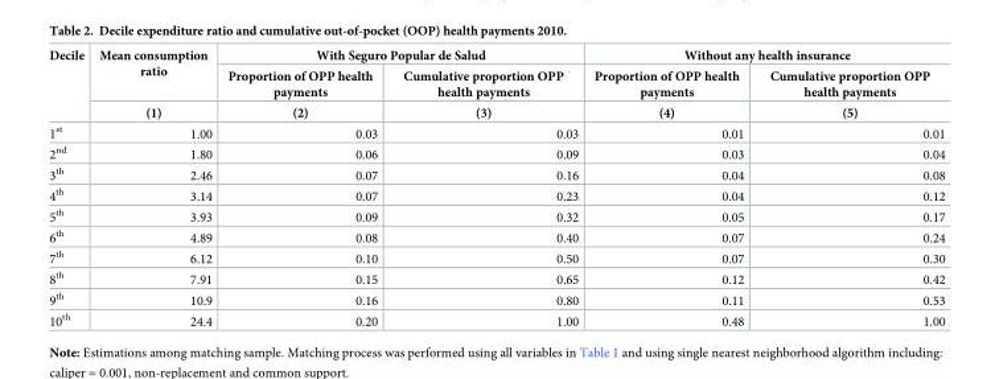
<table><thead><tr><td rowspan="3">Decile</td><td rowspan="3">Mean consumption ratio (1)</td><td colspan="2">With Seguro Popular de Salud</td><td colspan="2">Without any health insurance</td></tr><tr><td rowspan="2">Proportion of OPP health payments (2)</td><td rowspan="2">Cumulative proportion OPP health payments (3)</td><td rowspan="2">Proportion of OPP health payments (4)</td><td rowspan="2">Cumulative proportion OPP health payments (5)</td></tr><tr></tr></thead><tbody><tr><td>1<sup>st</sup></td><td>1.00</td><td>0.03</td><td>0.03</td><td>0.01</td><td>0.01</td></tr><tr><td>2<sup>nd</sup></td><td>1.80</td><td>0.06</td><td>0.09</td><td>0.03</td><td>0.04</td></tr><tr><td>3<sup>th</sup></td><td>2.46</td><td>0.07</td><td>0.16</td><td>0.04</td><td>0.08</td></tr><tr><td>4<sup>th</sup></td><td>3.14</td><td>0.07</td><td>0.23</td><td>0.04</td><td>0.12</td></tr><tr><td>5<sup>th</sup></td><td>3.93</td><td>0.09</td><td>0.32</td><td>0.05</td><td>0.17</td></tr><tr><td>6<sup>th</sup></td><td>4.89</td><td>0.08</td><td>0.40</td><td>0.07</td><td>0.24</td></tr><tr><td>7<sup>th</sup></td><td>6.12</td><td>0.10</td><td>0.50</td><td>0.07</td><td>0.30</td></tr><tr><td>8<sup>th</sup></td><td>7.91</td><td>0.15</td><td>0.65</td><td>0.12</td><td>0.42</td></tr><tr><td>9<sup>th</sup></td><td>10.9</td><td>0.16</td><td>0.80</td><td>0.11</td><td>0.53</td></tr><tr><td>10<sup>th</sup></td><td>24.4</td><td>0.20</td><td>1.00</td><td>0.48</td><td>1.00</td></tr></tbody></table>